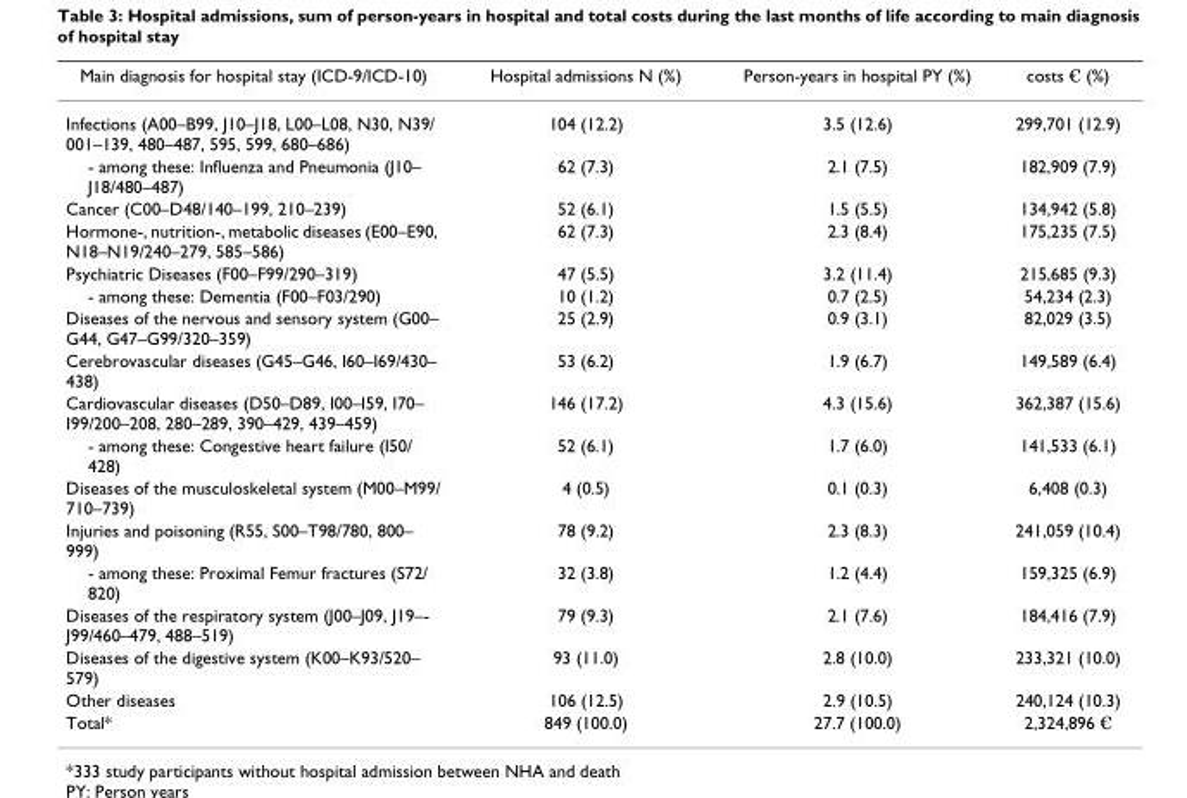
<table><thead><tr><td>Main diagnosis for hospital stay (ICD-9/ICD-10)</td><td>Hospital admissions N (%)</td><td>Person-years in hospital PY (%)</td><td>costs € (%)</td></tr></thead><tbody><tr><td>Infections (A00–B99, J10–J18, L00–L08, N30, N39/ 001–139, 480–487, 595, 599, 680–686)</td><td>104 (12.2)</td><td>3.5 (12.6)</td><td>299,701 (12.9)</td></tr><tr><td>- among these: Influenza and Pneumonia (J10– J18/480–487)</td><td>62 (7.3)</td><td>2.1 (7.5)</td><td>182,909 (7.9)</td></tr><tr><td>Cancer (C00–D48/140–199, 210–239)</td><td>52 (6.1)</td><td>1.5 (5.5)</td><td>134,942 (5.8)</td></tr><tr><td>Hormone-, nutrition-, metabolic diseases (E00–E90, N18–N19/240–279, 585–586)</td><td>62 (7.3)</td><td>2.3 (8.4)</td><td>175,235 (7.5)</td></tr><tr><td>Psychiatric Diseases (F00–F99/290–319)</td><td>47 (5.5)</td><td>3.2 (11.4)</td><td>215,685 (9.3)</td></tr><tr><td>- among these: Dementia (F00–F03/290)</td><td>10 (1.2)</td><td>0.7 (2.5)</td><td>54,234 (2.3)</td></tr><tr><td>Diseases of the nervous and sensory system (G00– G44, G47–G99/320–359)</td><td>25 (2.9)</td><td>0.9 (3.1)</td><td>82,029 (3.5)</td></tr><tr><td>Cerebrovascular diseases (G45–G46, I60–I69/430– 438)</td><td>53 (6.2)</td><td>1.9 (6.7)</td><td>149,589 (6.4)</td></tr><tr><td>Cardiovascular diseases (D50–D89, I00–I59, I70– I99/200–208, 280–289, 390–429, 439–459)</td><td>146 (17.2)</td><td>4.3 (15.6)</td><td>362,387 (15.6)</td></tr><tr><td>- among these: Congestive heart failure (I50/ 428)</td><td>52 (6.1)</td><td>1.7 (6.0)</td><td>141,533 (6.1)</td></tr><tr><td>Diseases of the musculoskeletal system (M00–M99/ 710–739)</td><td>4 (0.5)</td><td>0.1 (0.3)</td><td>6,408 (0.3)</td></tr><tr><td>Injuries and poisoning (R55, S00–T98/780, 800– 999)</td><td>78 (9.2)</td><td>2.3 (8.3)</td><td>241,059 (10.4)</td></tr><tr><td>- among these: Proximal Femur fractures (S72/ 820)</td><td>32 (3.8)</td><td>1.2 (4.4)</td><td>159,325 (6.9)</td></tr><tr><td>Diseases of the respiratory system (J00–J09, J19–- J99/460–479, 488–519)</td><td>79 (9.3)</td><td>2.1 (7.6)</td><td>184,416 (7.9)</td></tr><tr><td>Diseases of the digestive system (K00–K93/520– 579)</td><td>93 (11.0)</td><td>2.8 (10.0)</td><td>233,321 (10.0)</td></tr><tr><td>Other diseases</td><td>106 (12.5)</td><td>2.9 (10.5)</td><td>240,124 (10.3)</td></tr><tr><td>Total*</td><td>849 (100.0)</td><td>27.7 (100.0)</td><td>2,324,896 €</td></tr></tbody></table>